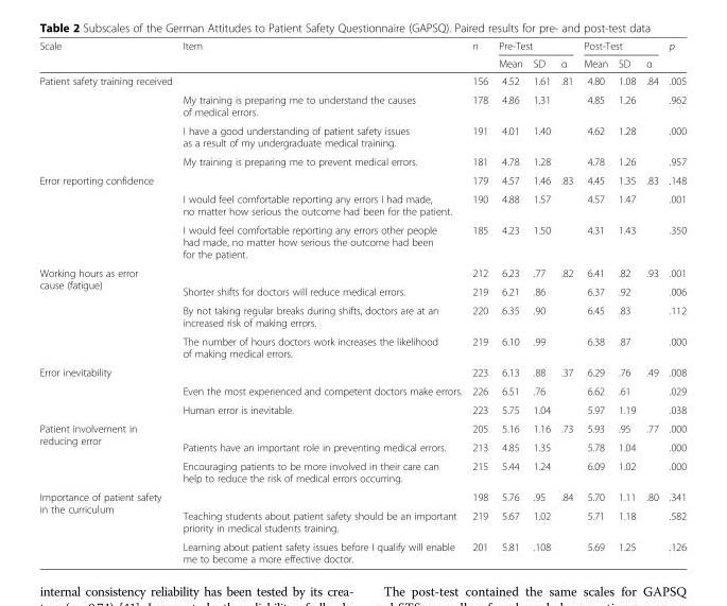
<table><thead><tr><td rowspan="2">Scale</td><td rowspan="2">Item</td><td rowspan="2">n</td><td colspan="3">Pre-Test</td><td colspan="3">Post-Test</td><td rowspan="2">p</td></tr><tr><td>Mean</td><td>SD</td><td>α</td><td>Mean</td><td>SD</td><td>α</td></tr></thead><tbody><tr><td rowspan="4">Patient safety training received</td><td></td><td>156</td><td>4.52</td><td>1.61</td><td>.81</td><td>4.80</td><td>1.08</td><td>.84</td><td>.005</td></tr><tr><td>My training is preparing me to understand the causes of medical errors.</td><td>178</td><td>4.86</td><td>1.31</td><td></td><td>4.85</td><td>1.26</td><td></td><td>.962</td></tr><tr><td>I have a good understanding of patient safety issues as a result of my undergraduate medical training.</td><td>191</td><td>4.01</td><td>1.40</td><td></td><td>4.62</td><td>1.28</td><td></td><td>.000</td></tr><tr><td>My training is preparing me to prevent medical errors.</td><td>181</td><td>4.78</td><td>1.28</td><td></td><td>4.78</td><td>1.26</td><td></td><td>.957</td></tr><tr><td rowspan="3">Error reporting confidence</td><td></td><td>179</td><td>4.57</td><td>1.46</td><td>.83</td><td>4.45</td><td>1.35</td><td>.83</td><td>.148</td></tr><tr><td>I would feel comfortable reporting any errors I had made, no matter how serious the outcome had been for the patient.</td><td>190</td><td>4.88</td><td>1.57</td><td></td><td>4.57</td><td>1.47</td><td></td><td>.001</td></tr><tr><td>I would feel comfortable reporting any errors other people had made, no matter how serious the outcome had been for the patient.</td><td>185</td><td>4.23</td><td>1.50</td><td></td><td>4.31</td><td>1.43</td><td></td><td>.350</td></tr><tr><td rowspan="4">Working hours as error cause (fatigue)</td><td></td><td>212</td><td>6.23</td><td>.77</td><td>.82</td><td>6.41</td><td>.82</td><td>.93</td><td>.001</td></tr><tr><td>Shorter shifts for doctors will reduce medical errors.</td><td>219</td><td>6.21</td><td>.86</td><td></td><td>6.37</td><td>.92</td><td></td><td>.006</td></tr><tr><td>By not taking regular breaks during shifts, doctors are at an increased risk of making errors.</td><td>220</td><td>6.35</td><td>.90</td><td></td><td>6.45</td><td>.83</td><td></td><td>.112</td></tr><tr><td>The number of hours doctors work increases the likelihood of making medical errors.</td><td>219</td><td>6.10</td><td>.99</td><td></td><td>6.38</td><td>.87</td><td></td><td>.000</td></tr><tr><td rowspan="3">Error inevitability</td><td></td><td>223</td><td>6.13</td><td>.88</td><td>.37</td><td>6.29</td><td>.76</td><td>.49</td><td>.008</td></tr><tr><td>Even the most experienced and competent doctors make errors.</td><td>226</td><td>6.51</td><td>.76</td><td></td><td>6.62</td><td>.61</td><td></td><td>.029</td></tr><tr><td>Human error is inevitable.</td><td>223</td><td>5.75</td><td>1.04</td><td></td><td>5.97</td><td>1.19</td><td></td><td>.038</td></tr><tr><td rowspan="3">Patient involvement in reducing error</td><td></td><td>205</td><td>5.16</td><td>1.16</td><td>.73</td><td>5.93</td><td>.95</td><td>.77</td><td>.000</td></tr><tr><td>Patients have an important role in preventing medical errors.</td><td>213</td><td>4.85</td><td>1.35</td><td></td><td>5.78</td><td>1.04</td><td></td><td>.000</td></tr><tr><td>Encouraging patients to be more involved in their care can help to reduce the risk of medical errors occurring.</td><td>215</td><td>5.44</td><td>1.24</td><td></td><td>6.09</td><td>1.02</td><td></td><td>.000</td></tr><tr><td rowspan="3">Importance of patient safety in the curriculum</td><td></td><td>198</td><td>5.76</td><td>.95</td><td>.84</td><td>5.70</td><td>1.11</td><td>.80</td><td>.341</td></tr><tr><td>Teaching students about patient safety should be an important priority in medical students training.</td><td>219</td><td>5.67</td><td>1.02</td><td></td><td>5.71</td><td>1.18</td><td></td><td>.582</td></tr><tr><td>Learning about patient safety issues before I qualify will enable me to become a more effective doctor.</td><td>201</td><td>5.81</td><td>.108</td><td></td><td>5.69</td><td>1.25</td><td></td><td>.126</td></tr></tbody></table>